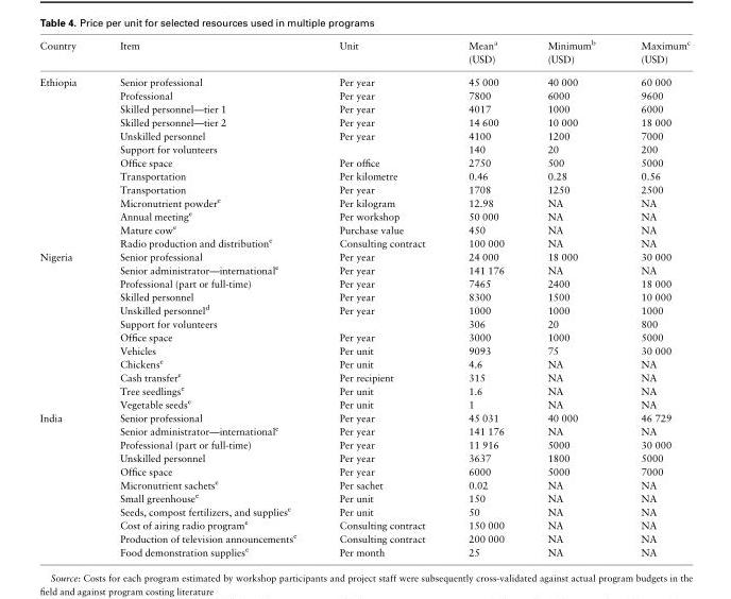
<table><thead><tr><td>Country</td><td>Item</td><td>Unit</td><td>Mean<sup>a</sup> (USD)</td><td>Minimum<sup>b</sup> (USD)</td><td>Maximum<sup>c</sup> (USD)</td></tr></thead><tbody><tr><td rowspan="13">Ethiopia</td><td>Senior professional</td><td>Per year</td><td>45 000</td><td>40 000</td><td>60 000</td></tr><tr><td>Professional</td><td>Per year</td><td>7800</td><td>6000</td><td>9600</td></tr><tr><td>Skilled personnel—tier 1</td><td>Per year</td><td>4017</td><td>1000</td><td>6000</td></tr><tr><td>Skilled personnel—tier 2</td><td>Per year</td><td>14 600</td><td>10 000</td><td>18 000</td></tr><tr><td>Unskilled personnel</td><td>Per year</td><td>4100</td><td>1200</td><td>7000</td></tr><tr><td>Support for volunteers</td><td></td><td>140</td><td>20</td><td>200</td></tr><tr><td>Office space</td><td>Per office</td><td>2750</td><td>500</td><td>5000</td></tr><tr><td>Transportation</td><td>Per kilometre</td><td>0.46</td><td>0.28</td><td>0.56</td></tr><tr><td>Transportation</td><td>Per year</td><td>1708</td><td>1250</td><td>2500</td></tr><tr><td>Micronutrient powder<sup>e</sup></td><td>Per kilogram</td><td>12.98</td><td>NA</td><td>NA</td></tr><tr><td>Annual meeting<sup>e</sup></td><td>Per workshop</td><td>50 000</td><td>NA</td><td>NA</td></tr><tr><td>Mature cow<sup>e</sup></td><td>Purchase value</td><td>450</td><td>NA</td><td>NA</td></tr><tr><td>Radio production and distribution<sup>e</sup></td><td>Consulting contract</td><td>100 000</td><td>NA</td><td>NA</td></tr><tr><td rowspan="12">Nigeria</td><td>Senior professional</td><td>Per year</td><td>24 000</td><td>18 000</td><td>30 000</td></tr><tr><td>Senior administrator—international<sup>e</sup></td><td>Per year</td><td>141 176</td><td>NA</td><td>NA</td></tr><tr><td>Professional (part or full-time)</td><td>Per year</td><td>7465</td><td>2400</td><td>18 000</td></tr><tr><td>Skilled personnel</td><td>Per year</td><td>8300</td><td>1500</td><td>10 000</td></tr><tr><td>Unskilled personnel<sup>d</sup></td><td>Per year</td><td>1000</td><td>1000</td><td>1000</td></tr><tr><td>Support for volunteers</td><td></td><td>306</td><td>20</td><td>800</td></tr><tr><td>Office space</td><td>Per year</td><td>3000</td><td>1000</td><td>5000</td></tr><tr><td>Vehicles</td><td>Per unit</td><td>9093</td><td>75</td><td>30 000</td></tr><tr><td>Chickens<sup>e</sup></td><td>Per unit</td><td>4.6</td><td>NA</td><td>NA</td></tr><tr><td>Cash transfer<sup>e</sup></td><td>Per recipient</td><td>315</td><td>NA</td><td>NA</td></tr><tr><td>Tree seedlings<sup>e</sup></td><td>Per unit</td><td>1.6</td><td>NA</td><td>NA</td></tr><tr><td>Vegetable seeds<sup>e</sup></td><td>Per unit</td><td>1</td><td>NA</td><td>NA</td></tr><tr><td rowspan="11">India</td><td>Senior professional</td><td>Per year</td><td>45 031</td><td>40 000</td><td>46 729</td></tr><tr><td>Senior administrator—international<sup>e</sup></td><td>Per year</td><td>141 176</td><td>NA</td><td>NA</td></tr><tr><td>Professional (part or full-time)</td><td>Per year</td><td>11 916</td><td>5000</td><td>30 000</td></tr><tr><td>Unskilled personnel</td><td>Per year</td><td>3637</td><td>1800</td><td>5000</td></tr><tr><td>Office space</td><td>Per year</td><td>6000</td><td>5000</td><td>7000</td></tr><tr><td>Micronutrient sachets<sup>e</sup></td><td>Per sachet</td><td>0.02</td><td>NA</td><td>NA</td></tr><tr><td>Small greenhouse<sup>e</sup></td><td>Per unit</td><td>150</td><td>NA</td><td>NA</td></tr><tr><td>Seeds, compost fertilizers, and supplies<sup>e</sup></td><td>Per unit</td><td>50</td><td>NA</td><td>NA</td></tr><tr><td>Cost of airing radio program<sup>e</sup></td><td>Consulting contract</td><td>150 000</td><td>NA</td><td>NA</td></tr><tr><td>Production of television announcements<sup>e</sup></td><td>Consulting contract</td><td>200 000</td><td>NA</td><td>NA</td></tr><tr><td>Food demonstration supplies<sup>e</sup></td><td>Per month</td><td>25</td><td>NA</td><td>NA</td></tr></tbody></table>